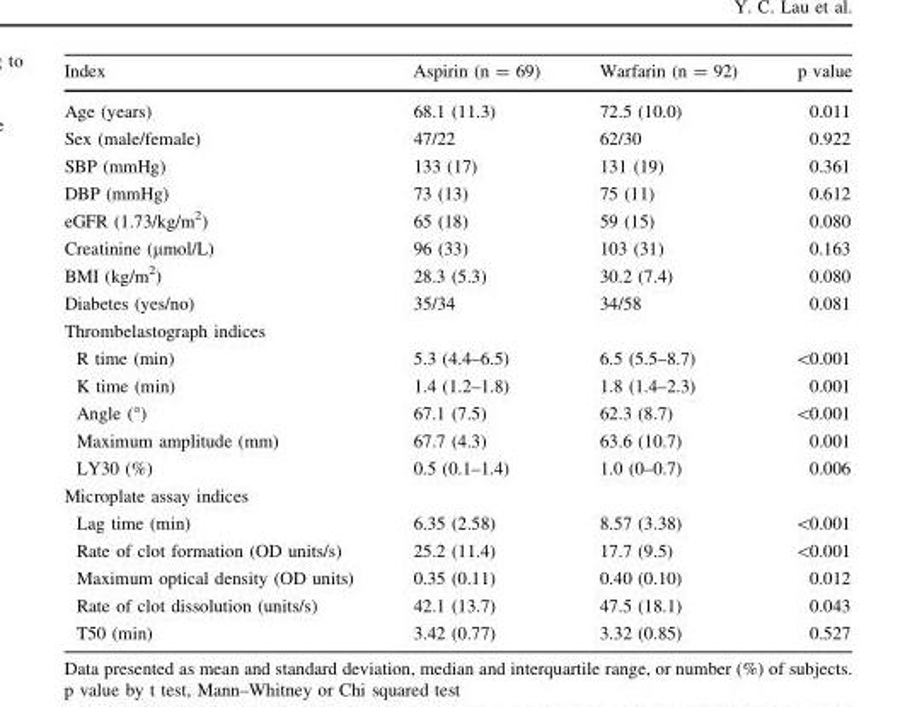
<table><thead><tr><td>Index</td><td>Aspirin (n = 69)</td><td>Warfarin (n = 92)</td><td>p value</td></tr></thead><tbody><tr><td>Age (years)</td><td>68.1 (11.3)</td><td>72.5 (10.0)</td><td>0.011</td></tr><tr><td>Sex (male/female)</td><td>47/22</td><td>62/30</td><td>0.922</td></tr><tr><td>SBP (mmHg)</td><td>133 (17)</td><td>131 (19)</td><td>0.361</td></tr><tr><td>DBP (mmHg)</td><td>73 (13)</td><td>75 (11)</td><td>0.612</td></tr><tr><td>eGFR (1.73/kg/m<sup>2</sup>)</td><td>65 (18)</td><td>59 (15)</td><td>0.080</td></tr><tr><td>Creatinine (μmol/L)</td><td>96 (33)</td><td>103 (31)</td><td>0.163</td></tr><tr><td>BMI (kg/m<sup>2</sup>)</td><td>28.3 (5.3)</td><td>30.2 (7.4)</td><td>0.080</td></tr><tr><td>Diabetes (yes/no)</td><td>35/34</td><td>34/58</td><td>0.081</td></tr><tr><td colspan="4">Thrombelastograph indices</td></tr><tr><td>R time (min)</td><td>5.3 (4.4–6.5)</td><td>6.5 (5.5–8.7)</td><td>&lt;0.001</td></tr><tr><td>K time (min)</td><td>1.4 (1.2–1.8)</td><td>1.8 (1.4–2.3)</td><td>0.001</td></tr><tr><td>Angle (°)</td><td>67.1 (7.5)</td><td>62.3 (8.7)</td><td>&lt;0.001</td></tr><tr><td>Maximum amplitude (mm)</td><td>67.7 (4.3)</td><td>63.6 (10.7)</td><td>0.001</td></tr><tr><td>LY30 (%)</td><td>0.5 (0.1–1.4)</td><td>1.0 (0–0.7)</td><td>0.006</td></tr><tr><td colspan="4">Microplate assay indices</td></tr><tr><td>Lag time (min)</td><td>6.35 (2.58)</td><td>8.57 (3.38)</td><td>&lt;0.001</td></tr><tr><td>Rate of clot formation (OD units/s)</td><td>25.2 (11.4)</td><td>17.7 (9.5)</td><td>&lt;0.001</td></tr><tr><td>Maximum optical density (OD units)</td><td>0.35 (0.11)</td><td>0.40 (0.10)</td><td>0.012</td></tr><tr><td>Rate of clot dissolution (units/s)</td><td>42.1 (13.7)</td><td>47.5 (18.1)</td><td>0.043</td></tr><tr><td>T50 (min)</td><td>3.42 (0.77)</td><td>3.32 (0.85)</td><td>0.527</td></tr></tbody></table>